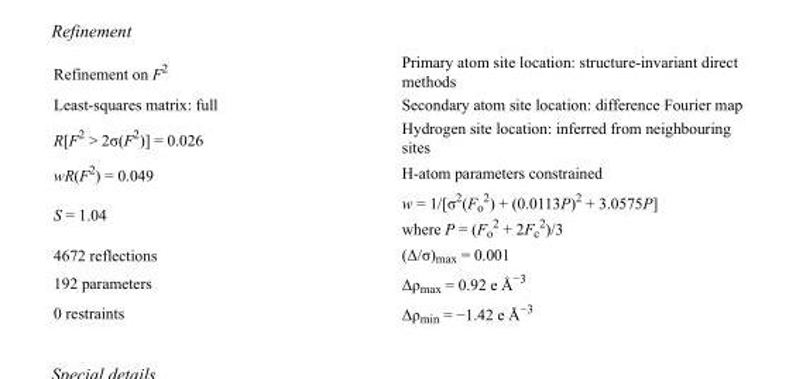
<table><tbody><tr><td>Refinement on F<sup>2</sup></td><td>Primary atom site location: structure-invariant direct methods</td></tr><tr><td>Least-squares matrix: full</td><td>Secondary atom site location: difference Fourier map</td></tr><tr><td>R[F<sup>2</sup> &gt; 2σ(F<sup>2</sup>)] = 0.026</td><td>Hydrogen site location: inferred from neighbouring sites</td></tr><tr><td>wR(F<sup>2</sup>) = 0.049</td><td>H-atom parameters constrained</td></tr><tr><td>S = 1.04</td><td>w = 1/[σ<sup>2</sup>(F<sub>o</sub> <sup>2</sup>) + (0.0113P)<sup>2</sup> + 3.0575P] where P = (F<sub>o</sub> <sup>2</sup> + 2F<sub>c</sub> <sup>2</sup>)/3</td></tr><tr><td>4672 reflections</td><td>(Δ/σ)<sub>max</sub> = 0.001</td></tr><tr><td>192 parameters</td><td>Δρ<sub>max</sub> = 0.92 e Å<sup>−3</sup></td></tr><tr><td>0 restraints</td><td>Δρ<sub>min</sub> = −1.42 e Å<sup>−3</sup></td></tr></tbody></table>